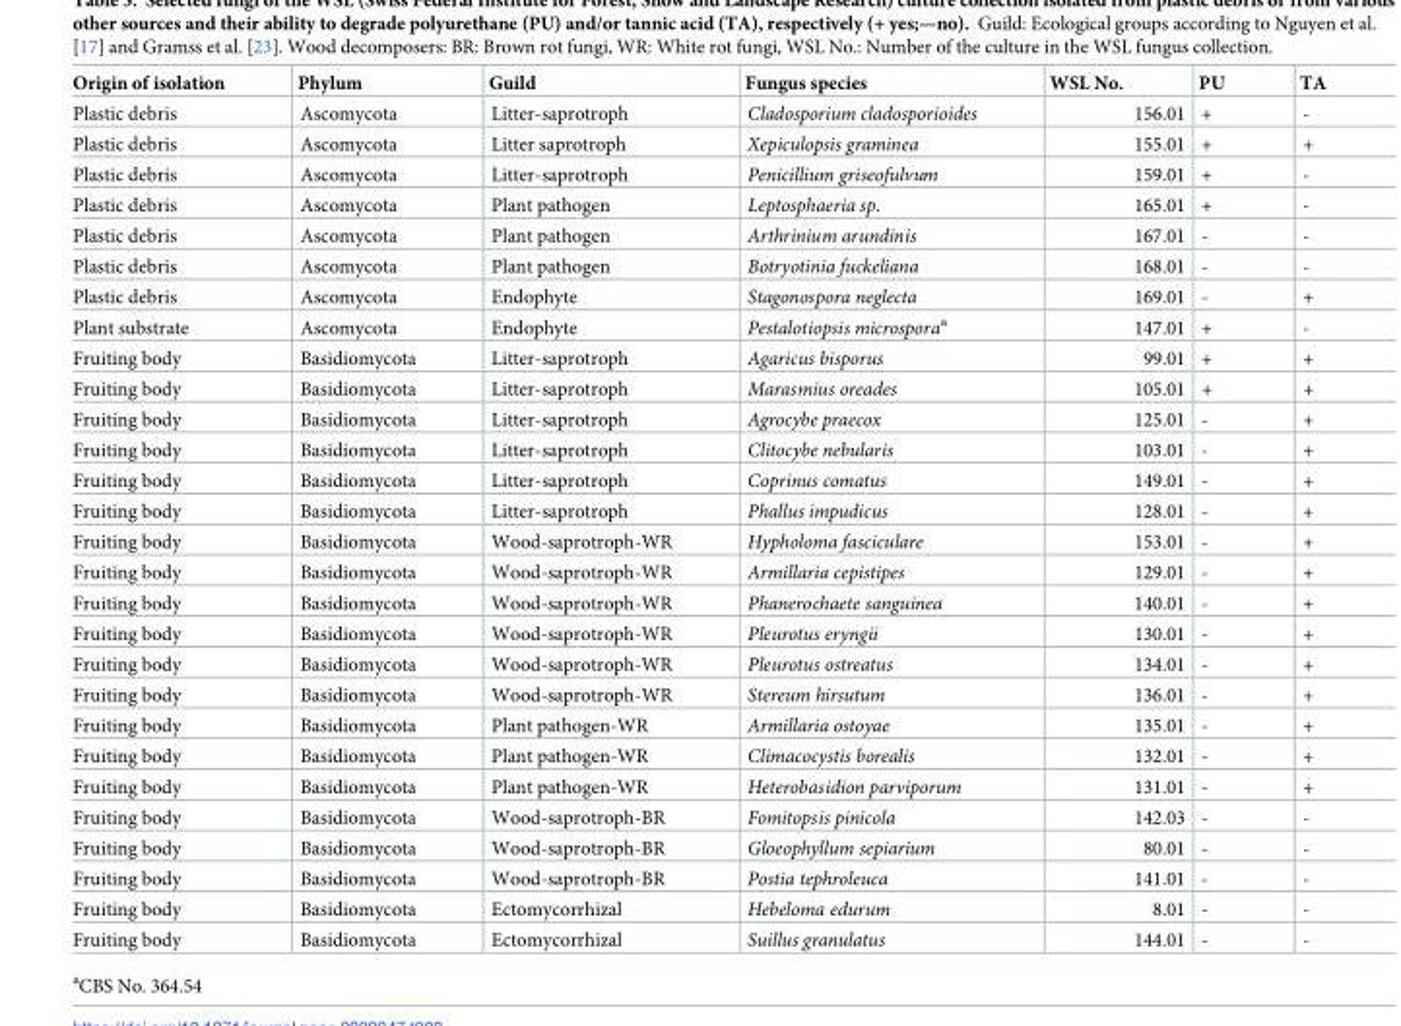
<table><thead><tr><td>Origin of isolation</td><td>Phylum</td><td>Guild</td><td>Fungus species</td><td>WSL No.</td><td>PU</td><td>TA</td></tr></thead><tbody><tr><td>Plastic debris</td><td>Ascomycota</td><td>Litter-saprotroph</td><td>Cladosporium cladosporioides</td><td>156.01</td><td>+</td><td>-</td></tr><tr><td>Plastic debris</td><td>Ascomycota</td><td>Litter saprotroph</td><td>Xepiculopsis graminea</td><td>155.01</td><td>+</td><td>+</td></tr><tr><td>Plastic debris</td><td>Ascomycota</td><td>Litter-saprotroph</td><td>Penicillium griseofulvum</td><td>159.01</td><td>+</td><td>-</td></tr><tr><td>Plastic debris</td><td>Ascomycota</td><td>Plant pathogen</td><td>Leptosphaeria sp.</td><td>165.01</td><td>+</td><td>-</td></tr><tr><td>Plastic debris</td><td>Ascomycota</td><td>Plant pathogen</td><td>Arthrinium arundinis</td><td>167.01</td><td>-</td><td>-</td></tr><tr><td>Plastic debris</td><td>Ascomycota</td><td>Plant pathogen</td><td>Botryotinia fuckeliana</td><td>168.01</td><td>-</td><td>-</td></tr><tr><td>Plastic debris</td><td>Ascomycota</td><td>Endophyte</td><td>Stagonospora neglecta</td><td>169.01</td><td>-</td><td>+</td></tr><tr><td>Plant substrate</td><td>Ascomycota</td><td>Endophyte</td><td>Pestalotiopsis microspora<sup>a</sup></td><td>147.01</td><td>+</td><td>-</td></tr><tr><td>Fruiting body</td><td>Basidiomycota</td><td>Litter-saprotroph</td><td>Agaricus bisporus</td><td>99.01</td><td>+</td><td>+</td></tr><tr><td>Fruiting body</td><td>Basidiomycota</td><td>Litter-saprotroph</td><td>Marasmius oreades</td><td>105.01</td><td>+</td><td>+</td></tr><tr><td>Fruiting body</td><td>Basidiomycota</td><td>Litter-saprotroph</td><td>Agrocybe praecox</td><td>125.01</td><td>-</td><td>+</td></tr><tr><td>Fruiting body</td><td>Basidiomycota</td><td>Litter-saprotroph</td><td>Clitocybe nebularis</td><td>103.01</td><td>-</td><td>+</td></tr><tr><td>Fruiting body</td><td>Basidiomycota</td><td>Litter-saprotroph</td><td>Coprinus comatus</td><td>149.01</td><td>-</td><td>+</td></tr><tr><td>Fruiting body</td><td>Basidiomycota</td><td>Litter-saprotroph</td><td>Phallus impudicus</td><td>128.01</td><td>-</td><td>+</td></tr><tr><td>Fruiting body</td><td>Basidiomycota</td><td>Wood-saprotroph-WR</td><td>Hypholoma fasciculare</td><td>153.01</td><td>-</td><td>+</td></tr><tr><td>Fruiting body</td><td>Basidiomycota</td><td>Wood-saprotroph-WR</td><td>Armillaria cepistipes</td><td>129.01</td><td>-</td><td>+</td></tr><tr><td>Fruiting body</td><td>Basidiomycota</td><td>Wood-saprotroph-WR</td><td>Phanerochaete sanguinea</td><td>140.01</td><td>-</td><td>+</td></tr><tr><td>Fruiting body</td><td>Basidiomycota</td><td>Wood-saprotroph-WR</td><td>Pleurotus eryngii</td><td>130.01</td><td>-</td><td>+</td></tr><tr><td>Fruiting body</td><td>Basidiomycota</td><td>Wood-saprotroph-WR</td><td>Pleurotus ostreatus</td><td>134.01</td><td>-</td><td>+</td></tr><tr><td>Fruiting body</td><td>Basidiomycota</td><td>Wood-saprotroph-WR</td><td>Stereum hirsutum</td><td>136.01</td><td>-</td><td>+</td></tr><tr><td>Fruiting body</td><td>Basidiomycota</td><td>Plant pathogen-WR</td><td>Armillaria ostoyae</td><td>135.01</td><td>-</td><td>+</td></tr><tr><td>Fruiting body</td><td>Basidiomycota</td><td>Plant pathogen-WR</td><td>Climacocystis borealis</td><td>132.01</td><td>-</td><td>+</td></tr><tr><td>Fruiting body</td><td>Basidiomycota</td><td>Plant pathogen-WR</td><td>Heterobasidion parviporum</td><td>131.01</td><td>-</td><td>+</td></tr><tr><td>Fruiting body</td><td>Basidiomycota</td><td>Wood-saprotroph-BR</td><td>Fomitopsis pinicola</td><td>142.03</td><td>-</td><td>-</td></tr><tr><td>Fruiting body</td><td>Basidiomycota</td><td>Wood-saprotroph-BR</td><td>Gloeophyllum sepiarium</td><td>80.01</td><td>-</td><td>-</td></tr><tr><td>Fruiting body</td><td>Basidiomycota</td><td>Wood-saprotroph-BR</td><td>Postia tephroleuca</td><td>141.01</td><td>-</td><td>-</td></tr><tr><td>Fruiting body</td><td>Basidiomycota</td><td>Ectomycorrhizal</td><td>Hebeloma edurum</td><td>8.01</td><td>-</td><td>-</td></tr><tr><td>Fruiting body</td><td>Basidiomycota</td><td>Ectomycorrhizal</td><td>Suillus granulatus</td><td>144.01</td><td>-</td><td>-</td></tr></tbody></table>